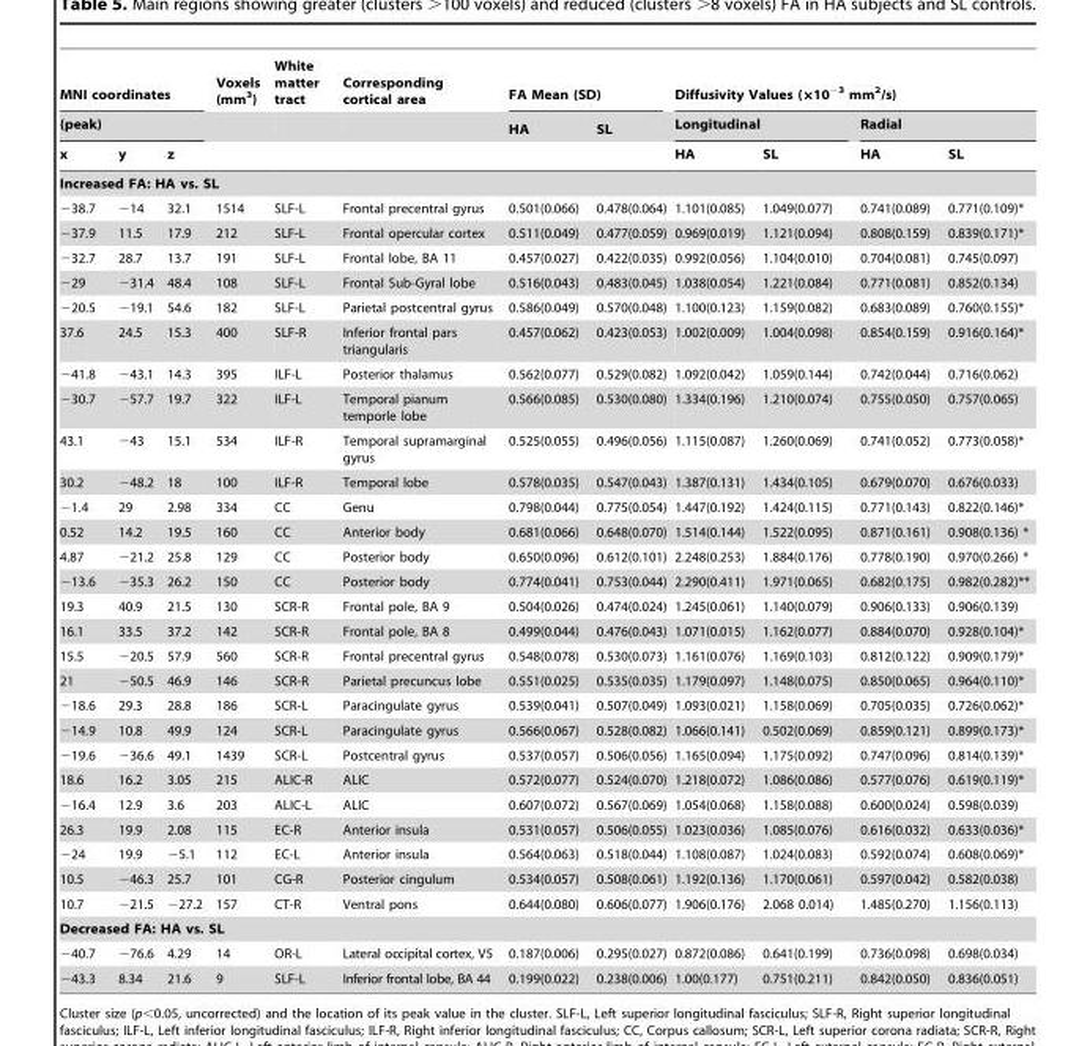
<table><thead><tr><td rowspan="2" colspan="3">MNI coordinates (peak)</td><td rowspan="3">Voxels (mm<sup>3</sup>)</td><td rowspan="3">White matter tract</td><td rowspan="3">Corresponding cortical area</td><td colspan="2">FA Mean (SD)</td><td colspan="4">Diffusivity Values (×10<sup>−3</sup> mm<sup>2</sup>/s)</td></tr><tr><td rowspan="2">HA</td><td rowspan="2">SL</td><td colspan="2">Longitudinal</td><td colspan="2">Radial</td></tr><tr><td>x</td><td>y</td><td>z</td><td>HA</td><td>SL</td><td>HA</td><td>SL</td></tr></thead><tbody><tr><td colspan="12">Increased FA: HA vs. SL</td></tr><tr><td>−38.7</td><td>−14</td><td>32.1</td><td>1514</td><td>SLF-L</td><td>Frontal precentral gyrus</td><td>0.501(0.066)</td><td>0.478(0.064)</td><td>1.101(0.085)</td><td>1.049(0.077)</td><td>0.741(0.089)</td><td>0.771(0.109)*</td></tr><tr><td>−37.9</td><td>11.5</td><td>17.9</td><td>212</td><td>SLF-L</td><td>Frontal opercular cortex</td><td>0.511(0.049)</td><td>0.477(0.059)</td><td>0.969(0.019)</td><td>1.121(0.094)</td><td>0.808(0.159)</td><td>0.839(0.171)*</td></tr><tr><td>−32.7</td><td>28.7</td><td>13.7</td><td>191</td><td>SLF-L</td><td>Frontal lobe, BA 11</td><td>0.457(0.027)</td><td>0.422(0.035)</td><td>0.992(0.056)</td><td>1.104(0.010)</td><td>0.704(0.081)</td><td>0.745(0.097)</td></tr><tr><td>−29</td><td>−31.4</td><td>48.4</td><td>108</td><td>SLF-L</td><td>Frontal Sub-Gyral lobe</td><td>0.516(0.043)</td><td>0.483(0.045)</td><td>1.038(0.054)</td><td>1.221(0.084)</td><td>0.771(0.081)</td><td>0.852(0.134)</td></tr><tr><td>−20.5</td><td>−19.1</td><td>54.6</td><td>182</td><td>SLF-L</td><td>Parietal postcentral gyrus</td><td>0.586(0.049)</td><td>0.570(0.048)</td><td>1.100(0.123)</td><td>1.159(0.082)</td><td>0.683(0.089)</td><td>0.760(0.155)*</td></tr><tr><td>37.6</td><td>24.5</td><td>15.3</td><td>400</td><td>SLF-R</td><td>Inferior frontal pars triangularis</td><td>0.457(0.062)</td><td>0.423(0.053)</td><td>1.002(0.009)</td><td>1.004(0.098)</td><td>0.854(0.159)</td><td>0.916(0.164)*</td></tr><tr><td>−41.8</td><td>−43.1</td><td>14.3</td><td>395</td><td>ILF-L</td><td>Posterior thalamus</td><td>0.562(0.077)</td><td>0.529(0.082)</td><td>1.092(0.042)</td><td>1.059(0.144)</td><td>0.742(0.044)</td><td>0.716(0.062)</td></tr><tr><td>−30.7</td><td>−57.7</td><td>19.7</td><td>322</td><td>ILF-L</td><td>Temporal pianum temporle lobe</td><td>0.566(0.085)</td><td>0.530(0.080)</td><td>1.334(0.196)</td><td>1.210(0.074)</td><td>0.755(0.050)</td><td>0.757(0.065)</td></tr><tr><td>43.1</td><td>−43</td><td>15.1</td><td>534</td><td>ILF-R</td><td>Temporal supramarginal gyrus</td><td>0.525(0.055)</td><td>0.496(0.056)</td><td>1.115(0.087)</td><td>1.260(0.069)</td><td>0.741(0.052)</td><td>0.773(0.058)*</td></tr><tr><td>30.2</td><td>−48.2</td><td>18</td><td>100</td><td>ILF-R</td><td>Temporal lobe</td><td>0.578(0.035)</td><td>0.547(0.043)</td><td>1.387(0.131)</td><td>1.434(0.105)</td><td>0.679(0.070)</td><td>0.676(0.033)</td></tr><tr><td>−1.4</td><td>29</td><td>2.98</td><td>334</td><td>CC</td><td>Genu</td><td>0.798(0.044)</td><td>0.775(0.054)</td><td>1.447(0.192)</td><td>1.424(0.115)</td><td>0.771(0.143)</td><td>0.822(0.146)*</td></tr><tr><td>0.52</td><td>14.2</td><td>19.5</td><td>160</td><td>CC</td><td>Anterior body</td><td>0.681(0.066)</td><td>0.648(0.070)</td><td>1.514(0.144)</td><td>1.522(0.095)</td><td>0.871(0.161)</td><td>0.908(0.136) *</td></tr><tr><td>4.87</td><td>−21.2</td><td>25.8</td><td>129</td><td>CC</td><td>Posterior body</td><td>0.650(0.096)</td><td>0.612(0.101)</td><td>2.248(0.253)</td><td>1.884(0.176)</td><td>0.778(0.190)</td><td>0.970(0.266) *</td></tr><tr><td>−13.6</td><td>−35.3</td><td>26.2</td><td>150</td><td>CC</td><td>Posterior body</td><td>0.774(0.041)</td><td>0.753(0.044)</td><td>2.290(0.411)</td><td>1.971(0.065)</td><td>0.682(0.175)</td><td>0.982(0.282)**</td></tr><tr><td>19.3</td><td>40.9</td><td>21.5</td><td>130</td><td>SCR-R</td><td>Frontal pole, BA 9</td><td>0.504(0.026)</td><td>0.474(0.024)</td><td>1.245(0.061)</td><td>1.140(0.079)</td><td>0.906(0.133)</td><td>0.906(0.139)</td></tr><tr><td>16.1</td><td>33.5</td><td>37.2</td><td>142</td><td>SCR-R</td><td>Frontal pole, BA 8</td><td>0.499(0.044)</td><td>0.476(0.043)</td><td>1.071(0.015)</td><td>1.162(0.077)</td><td>0.884(0.070)</td><td>0.928(0.104)*</td></tr><tr><td>15.5</td><td>−20.5</td><td>57.9</td><td>560</td><td>SCR-R</td><td>Frontal precentral gyrus</td><td>0.548(0.078)</td><td>0.530(0.073)</td><td>1.161(0.076)</td><td>1.169(0.103)</td><td>0.812(0.122)</td><td>0.909(0.179)*</td></tr><tr><td>21</td><td>−50.5</td><td>46.9</td><td>146</td><td>SCR-R</td><td>Parietal precuncus lobe</td><td>0.551(0.025)</td><td>0.535(0.035)</td><td>1.179(0.097)</td><td>1.148(0.075)</td><td>0.850(0.065)</td><td>0.964(0.110)*</td></tr><tr><td>−18.6</td><td>29.3</td><td>28.8</td><td>186</td><td>SCR-L</td><td>Paracingulate gyrus</td><td>0.539(0.041)</td><td>0.507(0.049)</td><td>1.093(0.021)</td><td>1.158(0.069)</td><td>0.705(0.035)</td><td>0.726(0.062)*</td></tr><tr><td>−14.9</td><td>10.8</td><td>49.9</td><td>124</td><td>SCR-L</td><td>Paracingulate gyrus</td><td>0.566(0.067)</td><td>0.528(0.082)</td><td>1.066(0.141)</td><td>0.502(0.069)</td><td>0.859(0.121)</td><td>0.899(0.173)*</td></tr><tr><td>−19.6</td><td>−36.6</td><td>49.1</td><td>1439</td><td>SCR-L</td><td>Postcentral gyrus</td><td>0.537(0.057)</td><td>0.506(0.056)</td><td>1.165(0.094)</td><td>1.175(0.092)</td><td>0.747(0.096)</td><td>0.814(0.139)*</td></tr><tr><td>18.6</td><td>16.2</td><td>3.05</td><td>215</td><td>ALIC-R</td><td>ALIC</td><td>0.572(0.077)</td><td>0.524(0.070)</td><td>1.218(0.072)</td><td>1.086(0.086)</td><td>0.577(0.076)</td><td>0.619(0.119)*</td></tr><tr><td>−16.4</td><td>12.9</td><td>3.6</td><td>203</td><td>ALIC-L</td><td>ALIC</td><td>0.607(0.072)</td><td>0.567(0.069)</td><td>1.054(0.068)</td><td>1.158(0.088)</td><td>0.600(0.024)</td><td>0.598(0.039)</td></tr><tr><td>26.3</td><td>19.9</td><td>2.08</td><td>115</td><td>EC-R</td><td>Anterior insula</td><td>0.531(0.057)</td><td>0.506(0.055)</td><td>1.023(0.036)</td><td>1.085(0.076)</td><td>0.616(0.032)</td><td>0.633(0.036)*</td></tr><tr><td>−24</td><td>19.9</td><td>−5.1</td><td>112</td><td>EC-L</td><td>Anterior insula</td><td>0.564(0.063)</td><td>0.518(0.044)</td><td>1.108(0.087)</td><td>1.024(0.083)</td><td>0.592(0.074)</td><td>0.608(0.069)*</td></tr><tr><td>10.5</td><td>−46.3</td><td>25.7</td><td>101</td><td>CG-R</td><td>Posterior cingulum</td><td>0.534(0.057)</td><td>0.508(0.061)</td><td>1.192(0.136)</td><td>1.170(0.061)</td><td>0.597(0.042)</td><td>0.582(0.038)</td></tr><tr><td>10.7</td><td>−21.5</td><td>−27.2</td><td>157</td><td>CT-R</td><td>Ventral pons</td><td>0.644(0.080)</td><td>0.606(0.077)</td><td>1.906(0.176)</td><td>2.068 0.014)</td><td>1.485(0.270)</td><td>1.156(0.113)</td></tr><tr><td colspan="12">Decreased FA: HA vs. SL</td></tr><tr><td>−40.7</td><td>−76.6</td><td>4.29</td><td>14</td><td>OR-L</td><td>Lateral occipital cortex, V5</td><td>0.187(0.006)</td><td>0.295(0.027)</td><td>0.872(0.086)</td><td>0.641(0.199)</td><td>0.736(0.098)</td><td>0.698(0.034)</td></tr><tr><td>−43.3</td><td>8.34</td><td>21.6</td><td>9</td><td>SLF-L</td><td>Inferior frontal lobe, BA 44</td><td>0.199(0.022)</td><td>0.238(0.006)</td><td>1.00(0.177)</td><td>0.751(0.211)</td><td>0.842(0.050)</td><td>0.836(0.051)</td></tr></tbody></table>